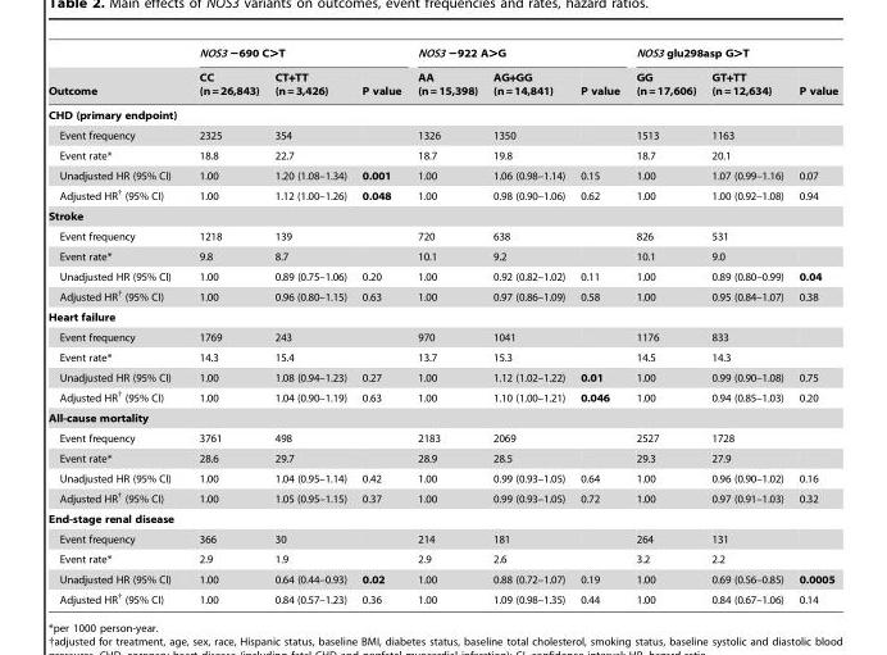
<table><thead><tr><td rowspan="2">Outcome</td><td colspan="3">NOS3 −690 C&gt;T</td><td colspan="3">NOS3 −922 A&gt;G</td><td colspan="3">NOS3 glu298asp G&gt;T</td></tr><tr><td>CC (n= 26,843)</td><td>CT+TT (n = 3,426)</td><td>P value</td><td>AA (n = 15,398)</td><td>AG+GG (n= 14,841)</td><td>P value</td><td>GG (n =17,606)</td><td>GT+TT (n = 12,634)</td><td>P value</td></tr></thead><tbody><tr><td colspan="10">CHD (primary endpoint)</td></tr><tr><td>Event frequency</td><td>2325</td><td>354</td><td></td><td>1326</td><td>1350</td><td></td><td>1513</td><td>1163</td><td></td></tr><tr><td>Event rate*</td><td>18.8</td><td>22.7</td><td></td><td>18.7</td><td>19.8</td><td></td><td>18.7</td><td>20.1</td><td></td></tr><tr><td>Unadjusted HR (95% CI)</td><td>1.00</td><td>1.20 (1.08–1.34)</td><td>0.001</td><td>1.00</td><td>1.06 (0.98–1.14)</td><td>0.15</td><td>1.00</td><td>1.07 (0.99–1.16)</td><td>0.07</td></tr><tr><td>Adjusted HR† (95% CI)</td><td>1.00</td><td>1.12 (1.00–1.26)</td><td>0.048</td><td>1.00</td><td>0.98 (0.90–1.06)</td><td>0.62</td><td>1.00</td><td>1.00 (0.92–1.08)</td><td>0.94</td></tr><tr><td colspan="10">Stroke</td></tr><tr><td>Event frequency</td><td>1218</td><td>139</td><td></td><td>720</td><td>638</td><td></td><td>826</td><td>531</td><td></td></tr><tr><td>Event rate*</td><td>9.8</td><td>8.7</td><td></td><td>10.1</td><td>9.2</td><td></td><td>10.1</td><td>9.0</td><td></td></tr><tr><td>Unadjusted HR (95% CI)</td><td>1.00</td><td>0.89 (0.75–1.06)</td><td>0.20</td><td>1.00</td><td>0.92 (0.82–1.02)</td><td>0.11</td><td>1.00</td><td>0.89 (0.80–0.99)</td><td>0.04</td></tr><tr><td>Adjusted HR† (95% CI)</td><td>1.00</td><td>0.96 (0.80–1.15)</td><td>0.63</td><td>1.00</td><td>0.97 (0.86–1.09)</td><td>0.58</td><td>1.00</td><td>0.95 (0.84–1.07)</td><td>0.38</td></tr><tr><td colspan="10">Heart failure</td></tr><tr><td>Event frequency</td><td>1769</td><td>243</td><td></td><td>970</td><td>1041</td><td></td><td>1176</td><td>833</td><td></td></tr><tr><td>Event rate*</td><td>14.3</td><td>15.4</td><td></td><td>13.7</td><td>15.3</td><td></td><td>14.5</td><td>14.3</td><td></td></tr><tr><td>Unadjusted HR (95% CI)</td><td>1.00</td><td>1.08 (0.94–1.23)</td><td>0.27</td><td>1.00</td><td>1.12 (1.02–1.22)</td><td>0.01</td><td>1.00</td><td>0.99 (0.90–1.08)</td><td>0.75</td></tr><tr><td>Adjusted HR† (95% CI)</td><td>1.00</td><td>1.04 (0.90–1.19)</td><td>0.63</td><td>1.00</td><td>1.10 (1.00–1.21)</td><td>0.046</td><td>1.00</td><td>0.94 (0.85–1.03)</td><td>0.20</td></tr><tr><td colspan="10">All-cause mortality</td></tr><tr><td>Event frequency</td><td>3761</td><td>498</td><td></td><td>2183</td><td>2069</td><td></td><td>2527</td><td>1728</td><td></td></tr><tr><td>Event rate*</td><td>28.6</td><td>29.7</td><td></td><td>28.9</td><td>28.5</td><td></td><td>29.3</td><td>27.9</td><td></td></tr><tr><td>Unadjusted HR (95% CI)</td><td>1.00</td><td>1.04 (0.95–1.14)</td><td>0.42</td><td>1.00</td><td>0.99 (0.93–1.05)</td><td>0.64</td><td>1.00</td><td>0.96 (0.90–1.02)</td><td>0.16</td></tr><tr><td>Adjusted HR† (95% CI)</td><td>1.00</td><td>1.05 (0.95–1.15)</td><td>0.37</td><td>1.00</td><td>0.99 (0.93–1.05)</td><td>0.72</td><td>1.00</td><td>0.97 (0.91–1.03)</td><td>0.32</td></tr><tr><td colspan="10">End-stage renal disease</td></tr><tr><td>Event frequency</td><td>366</td><td>30</td><td></td><td>214</td><td>181</td><td></td><td>264</td><td>131</td><td></td></tr><tr><td>Event rate*</td><td>2.9</td><td>1.9</td><td></td><td>2.9</td><td>2.6</td><td></td><td>3.2</td><td>2.2</td><td></td></tr><tr><td>Unadjusted HR (95% CI)</td><td>1.00</td><td>0.64 (0.44–0.93)</td><td>0.02</td><td>1.00</td><td>0.88 (0.72–1.07)</td><td>0.19</td><td>1.00</td><td>0.69 (0.56–0.85)</td><td>0.0005</td></tr><tr><td>Adjusted HR† (95% CI)</td><td>1.00</td><td>0.84 (0.57–1.23)</td><td>0.36</td><td>1.00</td><td>1.09 (0.98–1.35)</td><td>0.44</td><td>1.00</td><td>0.84 (0.67–1.06)</td><td>0.14</td></tr></tbody></table>